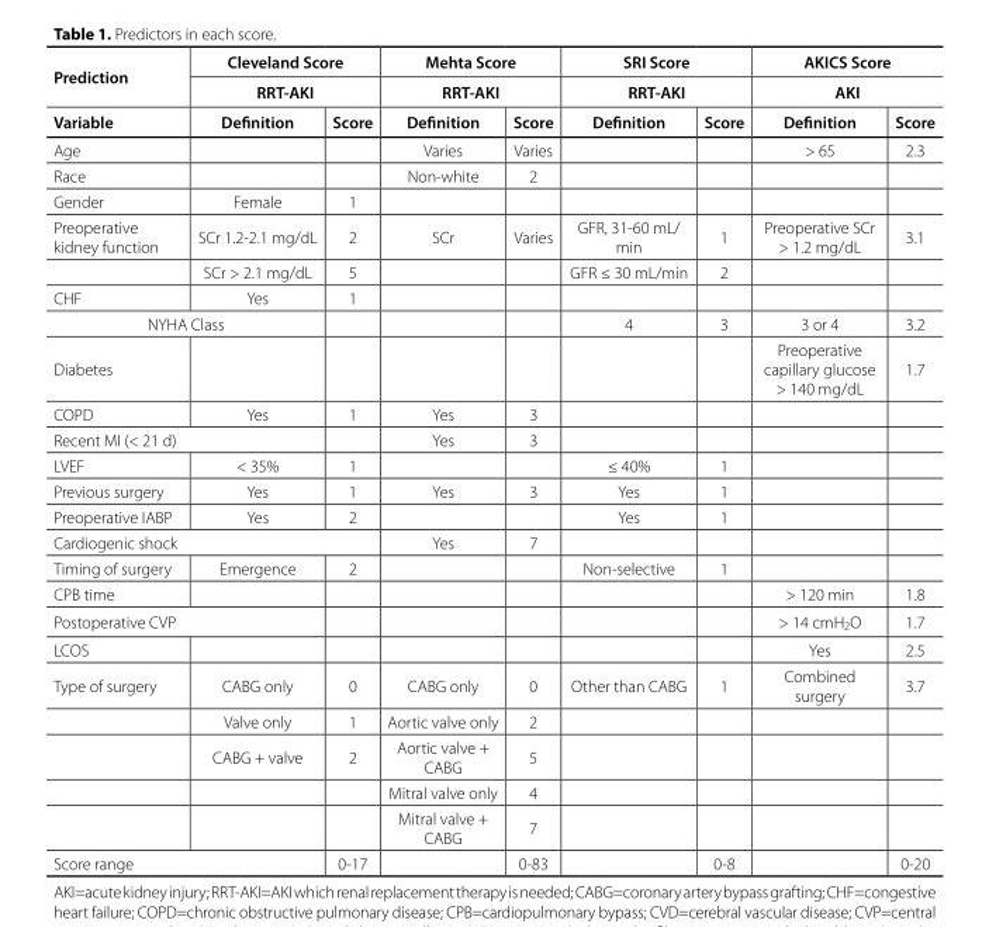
<table><thead><tr><td rowspan="3">Prediction Variable</td><td rowspan="2" colspan="2">Cleveland Score RRT-AKI</td><td rowspan="2" colspan="2">Mehta Score RRT-AKI</td><td rowspan="2" colspan="2">SRI Score RRT-AKI</td><td rowspan="2" colspan="2">AKICS Score AKI</td></tr><tr></tr><tr><td>Definition</td><td>Score</td><td>Definition</td><td>Score</td><td>Definition</td><td>Score</td><td>Definition</td><td>Score</td></tr></thead><tbody><tr><td>Age</td><td></td><td></td><td>Varies</td><td>Varies</td><td></td><td></td><td>&gt; 65</td><td>2.3</td></tr><tr><td>Race</td><td></td><td></td><td>Non-white</td><td>2</td><td></td><td></td><td></td><td></td></tr><tr><td>Gender</td><td>Female</td><td>1</td><td></td><td></td><td></td><td></td><td></td><td></td></tr><tr><td rowspan="2">Preoperative kidney function</td><td>SCr 1.2-2.1 mg/dL</td><td>2</td><td>SCr</td><td>Varies</td><td>GFR, 31-60 mL/ min</td><td>1</td><td>Preoperative SCr &gt; 1.2 mg/dL</td><td>3.1</td></tr><tr><td>SCr &gt; 2.1 mg/dL</td><td>5</td><td></td><td></td><td>GFR ≤ 30 mL/min</td><td>2</td><td></td><td></td></tr><tr><td>CHF</td><td>Yes</td><td>1</td><td></td><td></td><td></td><td></td><td></td><td></td></tr><tr><td colspan="2">NYHA Class</td><td></td><td></td><td></td><td>4</td><td>3</td><td>3 or 4</td><td>3.2</td></tr><tr><td>Diabetes</td><td></td><td></td><td></td><td></td><td></td><td></td><td>Preoperative capillary glucose &gt; 140 mg/dL</td><td>1.7</td></tr><tr><td>COPD</td><td>Yes</td><td>1</td><td>Yes</td><td>3</td><td></td><td></td><td></td><td></td></tr><tr><td colspan="2">Recent MI (&lt; 21 d)</td><td></td><td>Yes</td><td>3</td><td></td><td></td><td></td><td></td></tr><tr><td>LVEF</td><td>&lt; 35%</td><td>1</td><td></td><td></td><td>≤ 40%</td><td>1</td><td></td><td></td></tr><tr><td>Previous surgery</td><td>Yes</td><td>1</td><td>Yes</td><td>3</td><td>Yes</td><td>1</td><td></td><td></td></tr><tr><td>Preoperative IABP</td><td>Yes</td><td>2</td><td></td><td></td><td>Yes</td><td>1</td><td></td><td></td></tr><tr><td colspan="3">Cardiogenic shock</td><td>Yes</td><td>7</td><td></td><td></td><td></td><td></td></tr><tr><td>Timing of surgery</td><td>Emergence</td><td>2</td><td></td><td></td><td>Non-selective</td><td>1</td><td></td><td></td></tr><tr><td>CPB time</td><td></td><td></td><td></td><td></td><td></td><td></td><td>&gt; 120 min</td><td>1.8</td></tr><tr><td colspan="2">Postoperative CVP</td><td></td><td></td><td></td><td></td><td></td><td>&gt; 14 cmH2O</td><td>1.7</td></tr><tr><td>LCOS</td><td></td><td></td><td></td><td></td><td></td><td></td><td>Yes</td><td>2.5</td></tr><tr><td rowspan="5">Type of surgery</td><td>CABG only</td><td>0</td><td>CABG only</td><td>0</td><td>Other than CABG</td><td>1</td><td>Combined surgery</td><td>3.7</td></tr><tr><td>Valve only</td><td>1</td><td>Aortic valve only</td><td>2</td><td></td><td></td><td></td><td></td></tr><tr><td>CABG + valve</td><td>2</td><td>Aortic valve + CABG</td><td>5</td><td></td><td></td><td></td><td></td></tr><tr><td></td><td></td><td>Mitral valve only</td><td>4</td><td></td><td></td><td></td><td></td></tr><tr><td></td><td></td><td>Mitral valve + CABG</td><td>7</td><td></td><td></td><td></td><td></td></tr><tr><td colspan="2">Score range</td><td>0-17</td><td></td><td>0-83</td><td></td><td>0-8</td><td></td><td>0-20</td></tr></tbody></table>